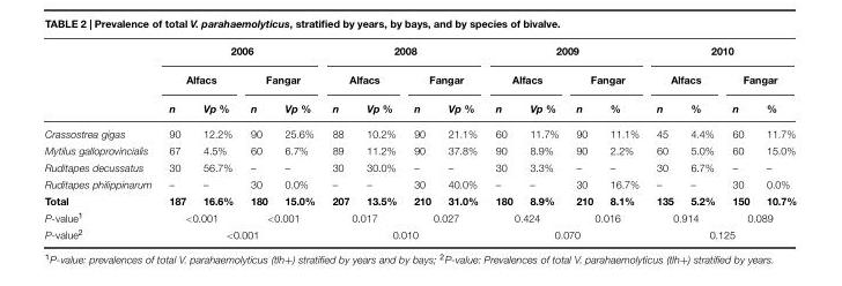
<table><thead><tr><td rowspan="3"></td><td colspan="4">2006</td><td colspan="4">2008</td><td colspan="4">2009</td><td colspan="4">2010</td></tr><tr><td colspan="2">Alfacs</td><td colspan="2">Fangar</td><td colspan="2">Alfacs</td><td colspan="2">Fangar</td><td colspan="2">Alfacs</td><td colspan="2">Fangar</td><td colspan="2">Alfacs</td><td colspan="2">Fangar</td></tr><tr><td>n</td><td>Vp %</td><td>n</td><td>Vp %</td><td>n</td><td>Vp %</td><td>n</td><td>Vp %</td><td>n</td><td>Vp %</td><td>n</td><td>%</td><td>n</td><td>%</td><td>n</td><td>%</td></tr></thead><tbody><tr><td>Crassostrea gigas</td><td>90</td><td>12.2%</td><td>90</td><td>25.6%</td><td>88</td><td>10.2%</td><td>90</td><td>21.1%</td><td>60</td><td>11.7%</td><td>90</td><td>11.1%</td><td>45</td><td>4.4%</td><td>60</td><td>11.7%</td></tr><tr><td>Mytilus galloprovincialis</td><td>67</td><td>4.5%</td><td>60</td><td>6.7%</td><td>89</td><td>11.2%</td><td>90</td><td>37.8%</td><td>90</td><td>8.9%</td><td>90</td><td>2.2%</td><td>60</td><td>5.0%</td><td>60</td><td>15.0%</td></tr><tr><td>Ruditapes decussatus</td><td>30</td><td>56.7%</td><td>–</td><td>–</td><td>30</td><td>30.0%</td><td>–</td><td>–</td><td>30</td><td>3.3%</td><td>–</td><td>–</td><td>30</td><td>6.7%</td><td>–</td><td>–</td></tr><tr><td>Ruditapes philippinarum</td><td>–</td><td>–</td><td>30</td><td>0.0%</td><td>–</td><td>–</td><td>30</td><td>40.0%</td><td>–</td><td>–</td><td>30</td><td>16.7%</td><td>–</td><td>–</td><td>30</td><td>0.0%</td></tr><tr><td>Total</td><td>187</td><td>16.6%</td><td>180</td><td>15.0%</td><td>207</td><td>13.5%</td><td>210</td><td>31.0%</td><td>180</td><td>8.9%</td><td>210</td><td>8.1%</td><td>135</td><td>5.2%</td><td>150</td><td>10.7%</td></tr><tr><td>P-value<sup>1</sup></td><td colspan="2">&lt;0.001</td><td colspan="2">&lt;0.001</td><td colspan="2">0.017</td><td colspan="2">0.027</td><td colspan="2">0.424</td><td colspan="2">0.016</td><td colspan="2">0.914</td><td colspan="2">0.089</td></tr><tr><td>P-value<sup>2</sup></td><td colspan="4">&lt;0.001</td><td colspan="4">0.010</td><td colspan="4">0.070</td><td colspan="4">0.125</td></tr></tbody></table>